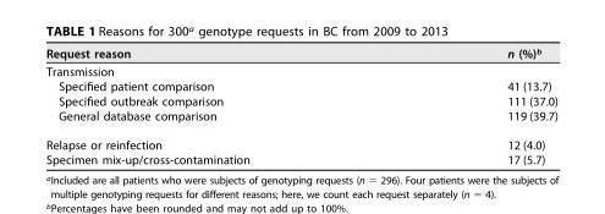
<table><thead><tr><td>Request reason</td><td>n (%)<sup>b</sup></td></tr></thead><tbody><tr><td colspan="2">Transmission</td></tr><tr><td>Specified patient comparison</td><td>41 (13.7)</td></tr><tr><td>Specified outbreak comparison</td><td>111 (37.0)</td></tr><tr><td>General database comparison</td><td>119 (39.7)</td></tr><tr><td>Relapse or reinfection</td><td>12 (4.0)</td></tr><tr><td>Specimen mix-up/cross-contamination</td><td>17 (5.7)</td></tr></tbody></table>